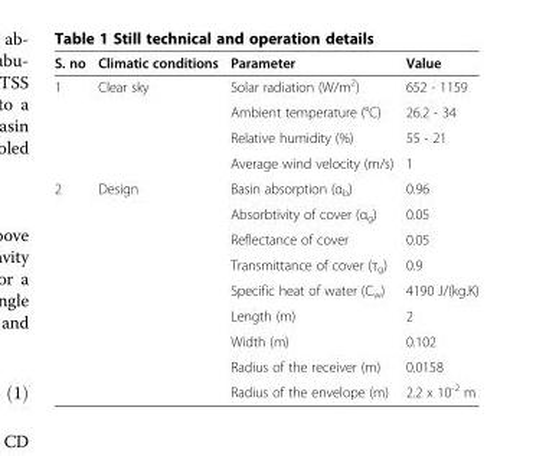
<table><thead><tr><td>S. no</td><td>Climatic conditions</td><td>Parameter</td><td>Value</td></tr></thead><tbody><tr><td rowspan="4">1</td><td>Clear sky</td><td>Solar radiation (W/m<sup>2</sup>)</td><td>652 - 1159</td></tr><tr><td></td><td>Ambient temperature (°C)</td><td>26.2 - 34</td></tr><tr><td></td><td>Relative humidity (%)</td><td>55 - 21</td></tr><tr><td></td><td>Average wind velocity (m/s)</td><td>1</td></tr><tr><td rowspan="9">2</td><td>Design</td><td>Basin absorption (α<sub>b</sub>)</td><td>0.96</td></tr><tr><td></td><td>Absorbtivity of cover (α<sub>g</sub>)</td><td>0.05</td></tr><tr><td></td><td>Reflectance of cover</td><td>0.05</td></tr><tr><td></td><td>Transmittance of cover (τ<sub>g</sub>)</td><td>0.9</td></tr><tr><td></td><td>Specific heat of water (C<sub>w</sub>)</td><td>4190 J/(kg.K)</td></tr><tr><td></td><td>Length (m)</td><td>2</td></tr><tr><td></td><td>Width (m)</td><td>0.102</td></tr><tr><td></td><td>Radius of the receiver (m)</td><td>0.0158</td></tr><tr><td></td><td>Radius of the envelope (m)</td><td>2.2 x 10<sup>-2</sup> m</td></tr></tbody></table>